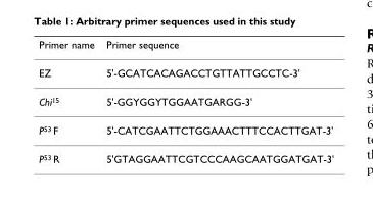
<table><thead><tr><td>Primer name</td><td>Primer sequence</td></tr></thead><tbody><tr><td>EZ</td><td>5&#x27;-GCATCACAGACCTGTTATTGCCTC-3&#x27;</td></tr><tr><td>Chi<sup>15</sup></td><td>5&#x27;-GGYGGYTGGAATGARGG-3&#x27;</td></tr><tr><td>P<sup>53</sup> F</td><td>5&#x27;-CATCGAATTCTGGAAACTTTCCACTTGAT-3&#x27;</td></tr><tr><td>P<sup>53</sup> R</td><td>5&#x27;GTAGGAATTCGTCCCAAGCAATGGATGAT-3&#x27;</td></tr></tbody></table>